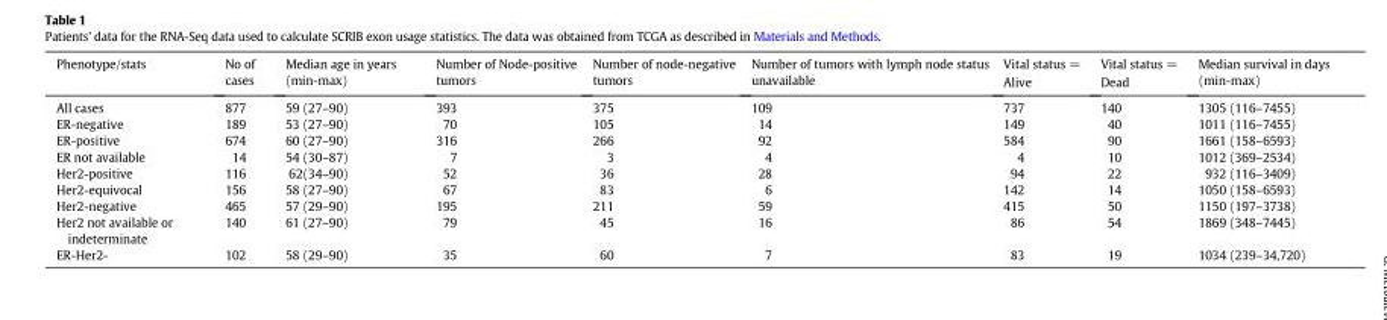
<table><thead><tr><td>Phenotype/stats</td><td>No of cases</td><td>Median age in years (min-max)</td><td>Number of Node-positive tumors</td><td>Number of node-negative tumors</td><td>Number of tumors with lymph node status unavailable</td><td>Vital status = Alive</td><td>Vital status = Dead</td><td>Median survival in days (min-max)</td></tr></thead><tbody><tr><td>All cases</td><td>877</td><td>59 (27–90)</td><td>393</td><td>375</td><td>109</td><td>737</td><td>140</td><td>1305 (116–7455)</td></tr><tr><td>ER-negative</td><td>189</td><td>53 (27–90)</td><td>70</td><td>105</td><td>14</td><td>149</td><td>40</td><td>1011 (116–7455)</td></tr><tr><td>ER-positive</td><td>674</td><td>60 (27–90)</td><td>316</td><td>266</td><td>92</td><td>584</td><td>90</td><td>1661 (158–6593)</td></tr><tr><td>ER not available</td><td>14</td><td>54 (30–87)</td><td>7</td><td>3</td><td>4</td><td>4</td><td>10</td><td>1012 (369–2534)</td></tr><tr><td>Her2-positive</td><td>116</td><td>62(34–90)</td><td>52</td><td>36</td><td>28</td><td>94</td><td>22</td><td>932 (116–3409)</td></tr><tr><td>Her2-equivocal</td><td>156</td><td>58 (27–90)</td><td>67</td><td>83</td><td>6</td><td>142</td><td>14</td><td>1050 (158–6593)</td></tr><tr><td>Her2-negative</td><td>465</td><td>57 (29–90)</td><td>195</td><td>211</td><td>59</td><td>415</td><td>50</td><td>1150 (197–3738)</td></tr><tr><td>Her2 not available or indeterminate</td><td>140</td><td>61 (27–90)</td><td>79</td><td>45</td><td>16</td><td>86</td><td>54</td><td>1869 (348–7445)</td></tr><tr><td>ER-Her2-</td><td>102</td><td>58 (29–90)</td><td>35</td><td>60</td><td>7</td><td>83</td><td>19</td><td>1034 (239–34,720)</td></tr></tbody></table>